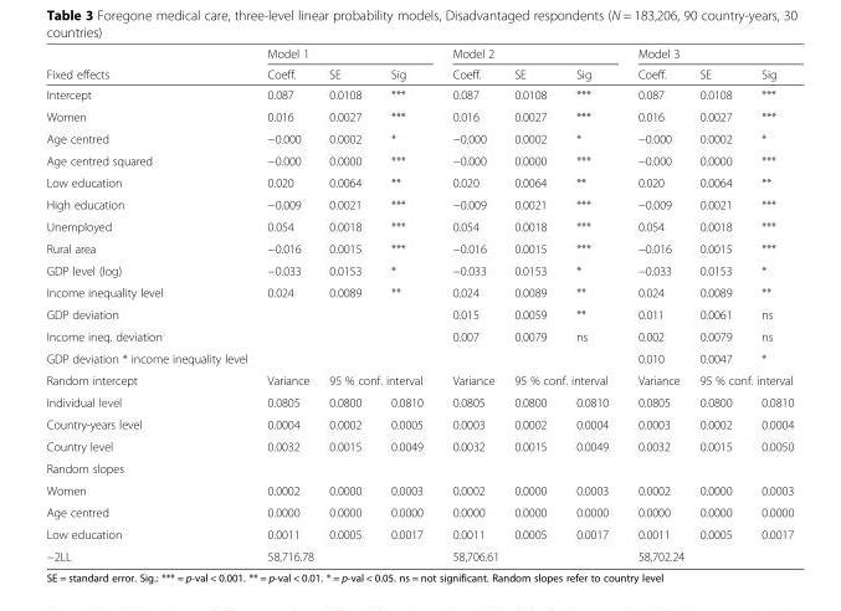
<table><thead><tr><td rowspan="2">Fixed effects</td><td colspan="3">Model 1</td><td colspan="3">Model 2</td><td colspan="3">Model 3</td></tr><tr><td>Coeff.</td><td>SE</td><td>Sig</td><td>Coeff.</td><td>SE</td><td>Sig</td><td>Coeff.</td><td>SE</td><td>Sig</td></tr></thead><tbody><tr><td>Intercept</td><td>0.087</td><td>0.0108</td><td>***</td><td>0.087</td><td>0.0108</td><td>***</td><td>0.087</td><td>0.0108</td><td>***</td></tr><tr><td>Women</td><td>0.016</td><td>0.0027</td><td>***</td><td>0.016</td><td>0.0027</td><td>***</td><td>0.016</td><td>0.0027</td><td>***</td></tr><tr><td>Age centred</td><td>−0.000</td><td>0.0002</td><td>*</td><td>−0.000</td><td>0.0002</td><td>*</td><td>−0.000</td><td>0.0002</td><td>*</td></tr><tr><td>Age centred squared</td><td>−0.000</td><td>0.0000</td><td>***</td><td>−0.000</td><td>0.0000</td><td>***</td><td>−0.000</td><td>0.0000</td><td>***</td></tr><tr><td>Low education</td><td>0.020</td><td>0.0064</td><td>**</td><td>0.020</td><td>0.0064</td><td>**</td><td>0.020</td><td>0.0064</td><td>**</td></tr><tr><td>High education</td><td>−0.009</td><td>0.0021</td><td>***</td><td>−0.009</td><td>0.0021</td><td>***</td><td>−0.009</td><td>0.0021</td><td>***</td></tr><tr><td>Unemployed</td><td>0.054</td><td>0.0018</td><td>***</td><td>0.054</td><td>0.0018</td><td>***</td><td>0.054</td><td>0.0018</td><td>***</td></tr><tr><td>Rural area</td><td>−0.016</td><td>0.0015</td><td>***</td><td>−0.016</td><td>0.0015</td><td>***</td><td>−0.016</td><td>0.0015</td><td>***</td></tr><tr><td>GDP level (log)</td><td>−0.033</td><td>0.0153</td><td>*</td><td>−0.033</td><td>0.0153</td><td>*</td><td>−0.033</td><td>0.0153</td><td>*</td></tr><tr><td>Income inequality level</td><td>0.024</td><td>0.0089</td><td>**</td><td>0.024</td><td>0.0089</td><td>**</td><td>0.024</td><td>0.0089</td><td>**</td></tr><tr><td>GDP deviation</td><td></td><td></td><td></td><td>0.015</td><td>0.0059</td><td>**</td><td>0.011</td><td>0.0061</td><td>ns</td></tr><tr><td>Income ineq. deviation</td><td></td><td></td><td></td><td>0.007</td><td>0.0079</td><td>ns</td><td>0.002</td><td>0.0079</td><td>ns</td></tr><tr><td>GDP deviation * income inequality level</td><td></td><td></td><td></td><td></td><td></td><td></td><td>0.010</td><td>0.0047</td><td>*</td></tr><tr><td>Random intercept</td><td>Variance</td><td colspan="2">95 % conf. interval</td><td>Variance</td><td colspan="2">95 % conf. interval</td><td>Variance</td><td colspan="2">95 % conf. interval</td></tr><tr><td>Individual level</td><td>0.0805</td><td>0.0800</td><td>0.0810</td><td>0.0805</td><td>0.0800</td><td>0.0810</td><td>0.0805</td><td>0.0800</td><td>0.0810</td></tr><tr><td>Country-years level</td><td>0.0004</td><td>0.0002</td><td>0.0005</td><td>0.0003</td><td>0.0002</td><td>0.0004</td><td>0.0003</td><td>0.0002</td><td>0.0004</td></tr><tr><td>Country level</td><td>0.0032</td><td>0.0015</td><td>0.0049</td><td>0.0032</td><td>0.0015</td><td>0.0049</td><td>0.0032</td><td>0.0015</td><td>0.0050</td></tr><tr><td colspan="10">Random slopes</td></tr><tr><td>Women</td><td>0.0002</td><td>0.0000</td><td>0.0003</td><td>0.0002</td><td>0.0000</td><td>0.0003</td><td>0.0002</td><td>0.0000</td><td>0.0003</td></tr><tr><td>Age centred</td><td>0.0000</td><td>0.0000</td><td>0.0000</td><td>0.0000</td><td>0.0000</td><td>0.0000</td><td>0.0000</td><td>0.0000</td><td>0.0000</td></tr><tr><td>Low education</td><td>0.0011</td><td>0.0005</td><td>0.0017</td><td>0.0011</td><td>0.0005</td><td>0.0017</td><td>0.0011</td><td>0.0005</td><td>0.0017</td></tr><tr><td>−2LL</td><td colspan="3">58,716.78</td><td colspan="3">58,706.61</td><td colspan="3">58,702.24</td></tr></tbody></table>